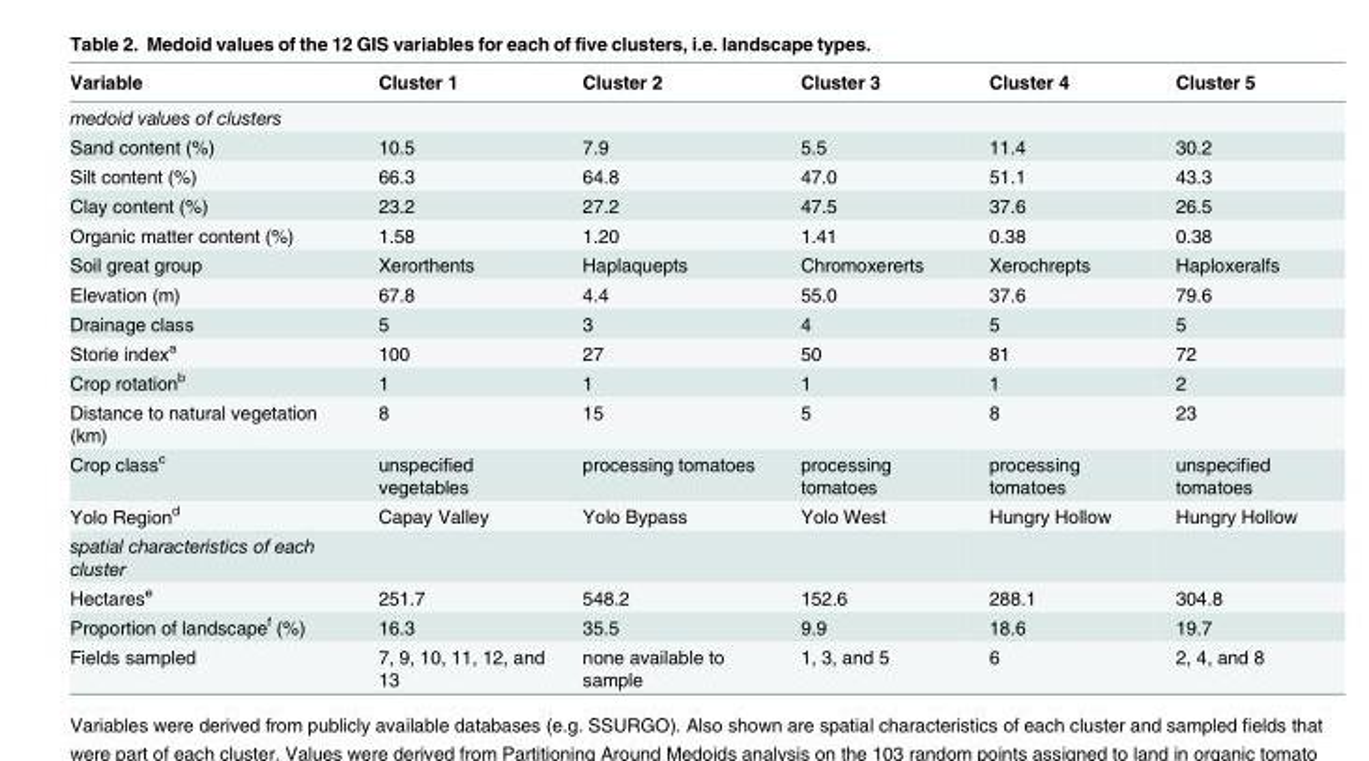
<table><thead><tr><td>Variable</td><td>Cluster 1</td><td>Cluster 2</td><td>Cluster 3</td><td>Cluster 4</td><td>Cluster 5</td></tr></thead><tbody><tr><td colspan="6">medoid values of clusters</td></tr><tr><td>Sand content (%)</td><td>10.5</td><td>7.9</td><td>5.5</td><td>11.4</td><td>30.2</td></tr><tr><td>Silt content (%)</td><td>66.3</td><td>64.8</td><td>47.0</td><td>51.1</td><td>43.3</td></tr><tr><td>Clay content (%)</td><td>23.2</td><td>27.2</td><td>47.5</td><td>37.6</td><td>26.5</td></tr><tr><td>Organic matter content (%)</td><td>1.58</td><td>1.20</td><td>1.41</td><td>0.38</td><td>0.38</td></tr><tr><td>Soil great group</td><td>Xerorthents</td><td>Haplaquepts</td><td>Chromoxererts</td><td>Xerochrepts</td><td>Haploxeralfs</td></tr><tr><td>Elevation (m)</td><td>67.8</td><td>4.4</td><td>55.0</td><td>37.6</td><td>79.6</td></tr><tr><td>Drainage class</td><td>5</td><td>3</td><td>4</td><td>5</td><td>5</td></tr><tr><td>Storie index<sup>a</sup></td><td>100</td><td>27</td><td>50</td><td>81</td><td>72</td></tr><tr><td>Crop rotation<sup>b</sup></td><td>1</td><td>1</td><td>1</td><td>1</td><td>2</td></tr><tr><td>Distance to natural vegetation (km)</td><td>8</td><td>15</td><td>5</td><td>8</td><td>23</td></tr><tr><td>Crop class<sup>c</sup></td><td>unspecified vegetables</td><td>processing tomatoes</td><td>processing tomatoes</td><td>processing tomatoes</td><td>unspecified tomatoes</td></tr><tr><td>Yolo Region<sup>d</sup></td><td>Capay Valley</td><td>Yolo Bypass</td><td>Yolo West</td><td>Hungry Hollow</td><td>Hungry Hollow</td></tr><tr><td colspan="6">spatial characteristics of each cluster</td></tr><tr><td>Hectares<sup>e</sup></td><td>251.7</td><td>548.2</td><td>152.6</td><td>288.1</td><td>304.8</td></tr><tr><td>Proportion of landscape<sup>f</sup> (%)</td><td>16.3</td><td>35.5</td><td>9.9</td><td>18.6</td><td>19.7</td></tr><tr><td>Fields sampled</td><td>7, 9, 10, 11, 12, and 13</td><td>none available to sample</td><td>1, 3, and 5</td><td>6</td><td>2, 4, and 8</td></tr></tbody></table>